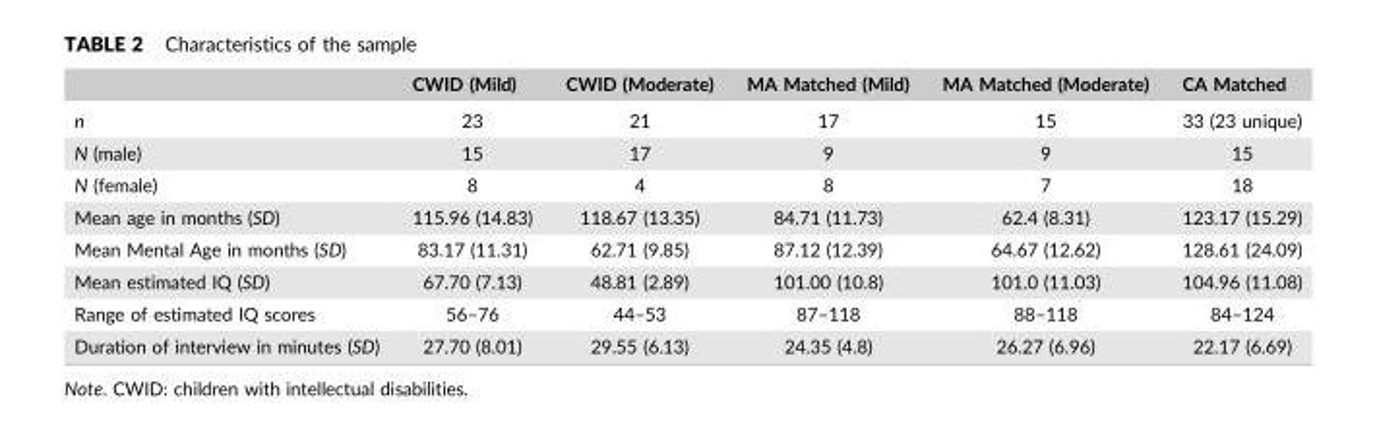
<table><thead><tr><td></td><td>CWID (Mild)</td><td>CWID (Moderate)</td><td>MA Matched (Mild)</td><td>MA Matched (Moderate)</td><td>CA Matched</td></tr></thead><tbody><tr><td>n</td><td>23</td><td>21</td><td>17</td><td>15</td><td>33 (23 unique)</td></tr><tr><td>N (male)</td><td>15</td><td>17</td><td>9</td><td>9</td><td>15</td></tr><tr><td>N (female)</td><td>8</td><td>4</td><td>8</td><td>7</td><td>18</td></tr><tr><td>Mean age in months (SD)</td><td>115.96 (14.83)</td><td>118.67 (13.35)</td><td>84.71 (11.73)</td><td>62.4 (8.31)</td><td>123.17 (15.29)</td></tr><tr><td>Mean Mental Age in months (SD)</td><td>83.17 (11.31)</td><td>62.71 (9.85)</td><td>87.12 (12.39)</td><td>64.67 (12.62)</td><td>128.61 (24.09)</td></tr><tr><td>Mean estimated IQ (SD)</td><td>67.70 (7.13)</td><td>48.81 (2.89)</td><td>101.00 (10.8)</td><td>101.0 (11.03)</td><td>104.96 (11.08)</td></tr><tr><td>Range of estimated IQ scores</td><td>56–76</td><td>44–53</td><td>87–118</td><td>88–118</td><td>84–124</td></tr><tr><td>Duration of interview in minutes (SD)</td><td>27.70 (8.01)</td><td>29.55 (6.13)</td><td>24.35 (4.8)</td><td>26.27 (6.96)</td><td>22.17 (6.69)</td></tr></tbody></table>